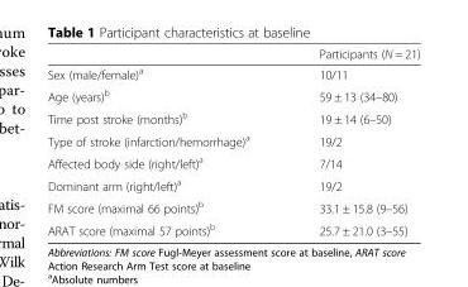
<table><thead><tr><td></td><td>Participants (N = 21)</td></tr></thead><tbody><tr><td>Sex (male/female)<sup>a</sup></td><td>10/11</td></tr><tr><td>Age (years)<sup>b</sup></td><td>59 ± 13 (34–80)</td></tr><tr><td>Time post stroke (months)<sup>b</sup></td><td>19 ± 14 (6–50)</td></tr><tr><td>Type of stroke (infarction/hemorrhage)<sup>a</sup></td><td>19/2</td></tr><tr><td>Affected body side (right/left)<sup>a</sup></td><td>7/14</td></tr><tr><td>Dominant arm (right/left)<sup>a</sup></td><td>19/2</td></tr><tr><td>FM score (maximal 66 points)<sup>b</sup></td><td>33.1 ± 15.8 (9–56)</td></tr><tr><td>ARAT score (maximal 57 points)<sup>b</sup></td><td>25.7 ± 21.0 (3–55)</td></tr></tbody></table>